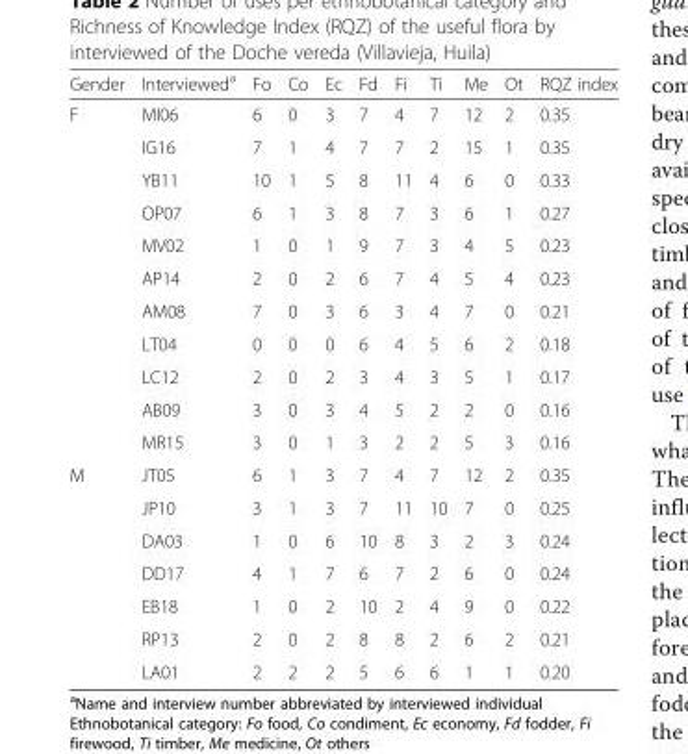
<table><thead><tr><td>Gender</td><td>Interviewed<sup>a</sup></td><td>Fo</td><td>Co</td><td>Ec</td><td>Fd</td><td>Fi</td><td>Ti</td><td>Me</td><td>Ot</td><td>RQZ index</td></tr></thead><tbody><tr><td rowspan="11">F</td><td>MI06</td><td>6</td><td>0</td><td>3</td><td>7</td><td>4</td><td>7</td><td>12</td><td>2</td><td>0.35</td></tr><tr><td>IG16</td><td>7</td><td>1</td><td>4</td><td>7</td><td>7</td><td>2</td><td>15</td><td>1</td><td>0.35</td></tr><tr><td>YB11</td><td>10</td><td>1</td><td>5</td><td>8</td><td>11</td><td>4</td><td>6</td><td>0</td><td>0.33</td></tr><tr><td>OP07</td><td>6</td><td>1</td><td>3</td><td>8</td><td>7</td><td>3</td><td>6</td><td>1</td><td>0.27</td></tr><tr><td>MV02</td><td>1</td><td>0</td><td>1</td><td>9</td><td>7</td><td>3</td><td>4</td><td>5</td><td>0.23</td></tr><tr><td>AP14</td><td>2</td><td>0</td><td>2</td><td>6</td><td>7</td><td>4</td><td>5</td><td>4</td><td>0.23</td></tr><tr><td>AM08</td><td>7</td><td>0</td><td>3</td><td>6</td><td>3</td><td>4</td><td>7</td><td>0</td><td>0.21</td></tr><tr><td>LT04</td><td>0</td><td>0</td><td>0</td><td>6</td><td>4</td><td>5</td><td>6</td><td>2</td><td>0.18</td></tr><tr><td>LC12</td><td>2</td><td>0</td><td>2</td><td>3</td><td>4</td><td>3</td><td>5</td><td>1</td><td>0.17</td></tr><tr><td>AB09</td><td>3</td><td>0</td><td>3</td><td>4</td><td>5</td><td>2</td><td>2</td><td>0</td><td>0.16</td></tr><tr><td>MR15</td><td>3</td><td>0</td><td>1</td><td>3</td><td>2</td><td>2</td><td>5</td><td>3</td><td>0.16</td></tr><tr><td rowspan="7">M</td><td>JT05</td><td>6</td><td>1</td><td>3</td><td>7</td><td>4</td><td>7</td><td>12</td><td>2</td><td>0.35</td></tr><tr><td>JP10</td><td>3</td><td>1</td><td>3</td><td>7</td><td>11</td><td>10</td><td>7</td><td>0</td><td>0.25</td></tr><tr><td>DA03</td><td>1</td><td>0</td><td>6</td><td>10</td><td>8</td><td>3</td><td>2</td><td>3</td><td>0.24</td></tr><tr><td>DD17</td><td>4</td><td>1</td><td>7</td><td>6</td><td>7</td><td>2</td><td>6</td><td>0</td><td>0.24</td></tr><tr><td>EB18</td><td>1</td><td>0</td><td>2</td><td>10</td><td>2</td><td>4</td><td>9</td><td>0</td><td>0.22</td></tr><tr><td>RP13</td><td>2</td><td>0</td><td>2</td><td>8</td><td>8</td><td>2</td><td>6</td><td>2</td><td>0.21</td></tr><tr><td>LA01</td><td>2</td><td>2</td><td>2</td><td>5</td><td>6</td><td>6</td><td>1</td><td>1</td><td>0.20</td></tr></tbody></table>